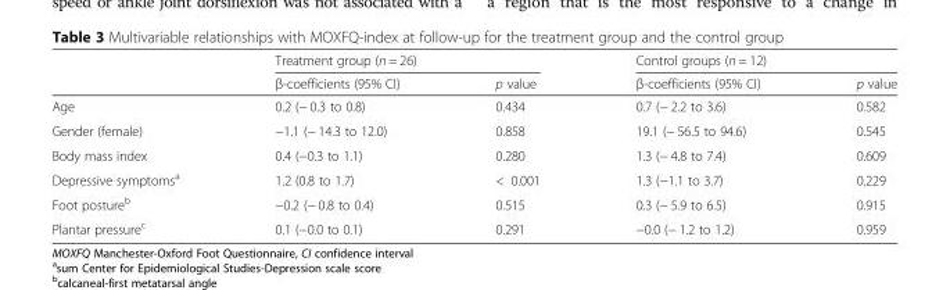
<table><thead><tr><td rowspan="2"></td><td colspan="2">Treatment group (n = 26)</td><td colspan="2">Control groups (n = 12)</td></tr><tr><td>β-coefficients (95% CI)</td><td>p value</td><td>β-coefficients (95% CI)</td><td>p value</td></tr></thead><tbody><tr><td>Age</td><td>0.2 (− 0.3 to 0.8)</td><td>0.434</td><td>0.7 (− 2.2 to 3.6)</td><td>0.582</td></tr><tr><td>Gender (female)</td><td>−1.1 (− 14.3 to 12.0)</td><td>0.858</td><td>19.1 (− 56.5 to 94.6)</td><td>0.545</td></tr><tr><td>Body mass index</td><td>0.4 (−0.3 to 1.1)</td><td>0.280</td><td>1.3 (− 4.8 to 7.4)</td><td>0.609</td></tr><tr><td>Depressive symptoms<sup>a</sup></td><td>1.2 (0.8 to 1.7)</td><td>&lt; 0.001</td><td>1.3 (−1.1 to 3.7)</td><td>0.229</td></tr><tr><td>Foot posture<sup>b</sup></td><td>−0.2 (− 0.8 to 0.4)</td><td>0.515</td><td>0.3 (− 5.9 to 6.5)</td><td>0.915</td></tr><tr><td>Plantar pressure<sup>c</sup></td><td>0.1 (−0.0 to 0.1)</td><td>0.291</td><td>−0.0 (− 1.2 to 1.2)</td><td>0.959</td></tr></tbody></table>